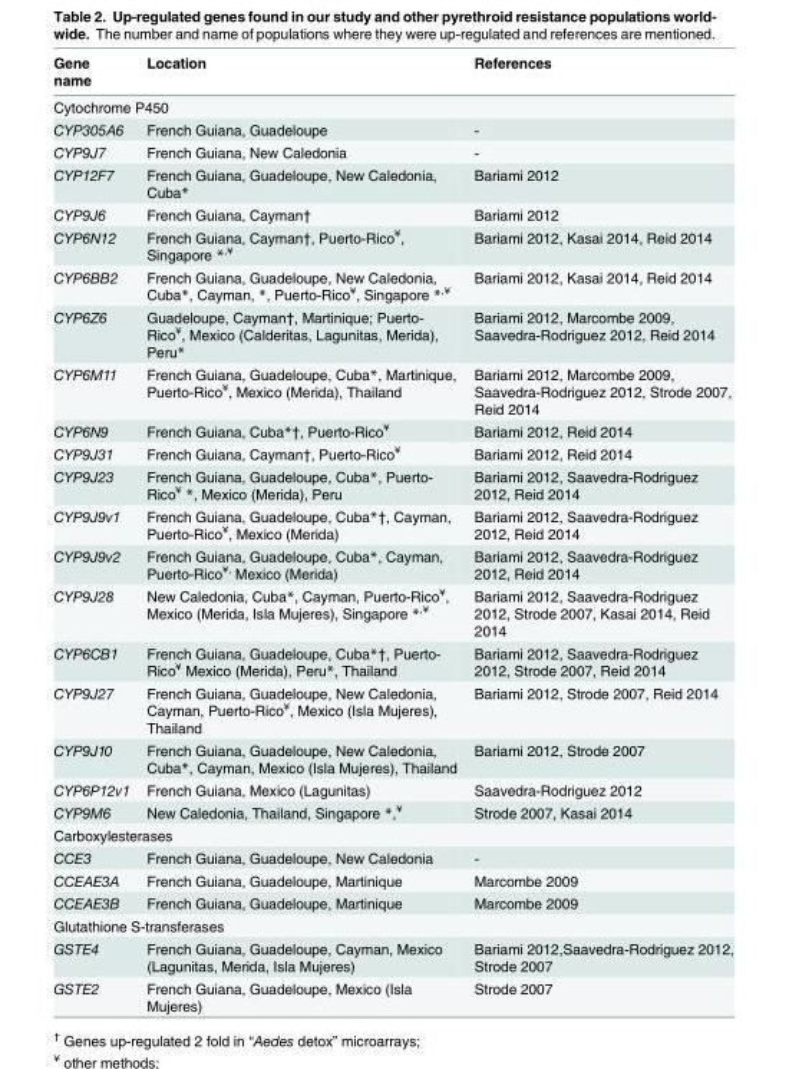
<table><thead><tr><td>Gene name</td><td>Location</td><td>References</td></tr></thead><tbody><tr><td colspan="3">Cytochrome P450</td></tr><tr><td>CYP305A6</td><td>French Guiana, Guadeloupe</td><td>-</td></tr><tr><td>CYP9J7</td><td>French Guiana, New Caledonia</td><td>-</td></tr><tr><td>CYP12F7</td><td>French Guiana, Guadeloupe, New Caledonia, Cuba*</td><td>Bariami 2012</td></tr><tr><td>CYP9J6</td><td>French Guiana, Cayman†</td><td>Bariami 2012</td></tr><tr><td>CYP6N12</td><td>French Guiana, Cayman†, Puerto-Rico<sup>¥</sup>, Singapore *<sup>,¥</sup></td><td>Bariami 2012, Kasai 2014, Reid 2014</td></tr><tr><td>CYP6BB2</td><td>French Guiana, Guadeloupe, New Caledonia, Cuba*, Cayman, *, Puerto-Rico<sup>¥</sup>, Singapore *<sup>,¥</sup></td><td>Bariami 2012, Kasai 2014, Reid 2014</td></tr><tr><td>CYP6Z6</td><td>Guadeloupe, Cayman†, Martinique; Puerto- Rico<sup>¥</sup>, Mexico (Calderitas, Lagunitas, Merida), Peru*</td><td>Bariami 2012, Marcombe 2009, Saavedra-Rodriguez 2012, Reid 2014</td></tr><tr><td>CYP6M11</td><td>French Guiana, Guadeloupe, Cuba*, Martinique, Puerto-Rico<sup>¥</sup>, Mexico (Merida), Thailand</td><td>Bariami 2012, Marcombe 2009, Saavedra-Rodriguez 2012, Strode 2007, Reid 2014</td></tr><tr><td>CYP6N9</td><td>French Guiana, Cuba*†, Puerto-Rico<sup>¥</sup></td><td>Bariami 2012, Reid 2014</td></tr><tr><td>CYP9J31</td><td>French Guiana, Cayman†, Puerto-Rico<sup>¥</sup></td><td>Bariami 2012, Reid 2014</td></tr><tr><td>CYP9J23</td><td>French Guiana, Guadeloupe, Cuba*, Puerto- Rico<sup>¥</sup> *, Mexico (Merida), Peru</td><td>Bariami 2012, Saavedra-Rodriguez 2012, Reid 2014</td></tr><tr><td>CYP9J9v1</td><td>French Guiana, Guadeloupe, Cuba*†, Cayman, Puerto-Rico<sup>¥</sup>, Mexico (Merida)</td><td>Bariami 2012, Saavedra-Rodriguez 2012, Reid 2014</td></tr><tr><td>CYP9J9v2</td><td>French Guiana, Guadeloupe, Cuba*, Cayman, Puerto-Rico<sup>¥,</sup> Mexico (Merida)</td><td>Bariami 2012, Saavedra-Rodriguez 2012, Reid 2014</td></tr><tr><td>CYP9J28</td><td>New Caledonia, Cuba*, Cayman, Puerto-Rico<sup>¥</sup>, Mexico (Merida, Isla Mujeres), Singapore *<sup>,¥</sup></td><td>Bariami 2012, Saavedra-Rodriguez 2012, Strode 2007, Kasai 2014, Reid 2014</td></tr><tr><td>CYP6CB1</td><td>French Guiana, Guadeloupe, Cuba*†, Puerto- Rico<sup>¥</sup> Mexico (Merida), Peru*, Thailand</td><td>Bariami 2012, Saavedra-Rodriguez 2012, Strode 2007, Reid 2014</td></tr><tr><td>CYP9J27</td><td>French Guiana, Guadeloupe, New Caledonia, Cayman, Puerto-Rico<sup>¥</sup>, Mexico (Isla Mujeres), Thailand</td><td>Bariami 2012, Strode 2007, Reid 2014</td></tr><tr><td>CYP9J10</td><td>French Guiana, Guadeloupe, New Caledonia, Cuba*, Cayman, Mexico (Isla Mujeres), Thailand</td><td>Bariami 2012, Strode 2007</td></tr><tr><td>CYP6P12v1</td><td>French Guiana, Mexico (Lagunitas)</td><td>Saavedra-Rodriguez 2012</td></tr><tr><td>CYP9M6</td><td>New Caledonia, Thailand, Singapore *,<sup>¥</sup></td><td>Strode 2007, Kasai 2014</td></tr><tr><td colspan="3">Carboxylesterases</td></tr><tr><td>CCE3</td><td>French Guiana, Guadeloupe, New Caledonia</td><td>-</td></tr><tr><td>CCEAE3A</td><td>French Guiana, Guadeloupe, Martinique</td><td>Marcombe 2009</td></tr><tr><td>CCEAE3B</td><td>French Guiana, Guadeloupe, Martinique</td><td>Marcombe 2009</td></tr><tr><td colspan="3">Glutathione S-transferases</td></tr><tr><td>GSTE4</td><td>French Guiana, Guadeloupe, Cayman, Mexico (Lagunitas, Merida, Isla Mujeres)</td><td>Bariami 2012,Saavedra-Rodriguez 2012, Strode 2007</td></tr><tr><td>GSTE2</td><td>French Guiana, Guadeloupe, Mexico (Isla Mujeres)</td><td>Strode 2007</td></tr></tbody></table>